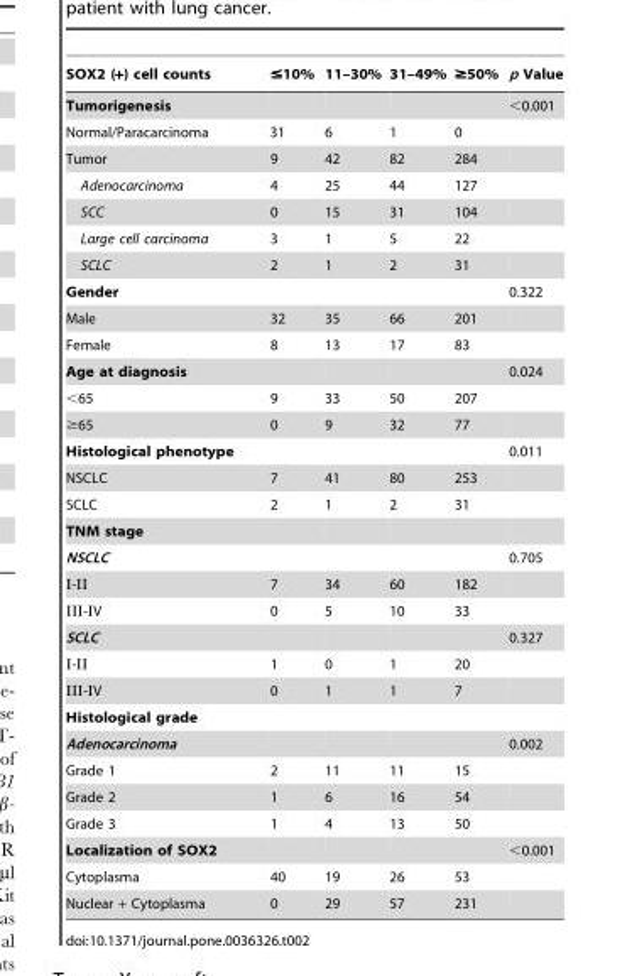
<table><thead><tr><td>SOX2 (+) cell counts</td><td>≤10%</td><td>11–30%</td><td>31–49%</td><td>≥50%</td><td>p Value</td></tr></thead><tbody><tr><td>Tumorigenesis</td><td></td><td></td><td></td><td></td><td>&lt;0.001</td></tr><tr><td>Normal/Paracarcinoma</td><td>31</td><td>6</td><td>1</td><td>0</td><td></td></tr><tr><td>Tumor</td><td>9</td><td>42</td><td>82</td><td>284</td><td></td></tr><tr><td>Adenocarcinoma</td><td>4</td><td>25</td><td>44</td><td>127</td><td></td></tr><tr><td>SCC</td><td>0</td><td>15</td><td>31</td><td>104</td><td></td></tr><tr><td>Large cell carcinoma</td><td>3</td><td>1</td><td>5</td><td>22</td><td></td></tr><tr><td>SCLC</td><td>2</td><td>1</td><td>2</td><td>31</td><td></td></tr><tr><td>Gender</td><td></td><td></td><td></td><td></td><td>0.322</td></tr><tr><td>Male</td><td>32</td><td>35</td><td>66</td><td>201</td><td></td></tr><tr><td>Female</td><td>8</td><td>13</td><td>17</td><td>83</td><td></td></tr><tr><td>Age at diagnosis</td><td></td><td></td><td></td><td></td><td>0.024</td></tr><tr><td>&lt;65</td><td>9</td><td>33</td><td>50</td><td>207</td><td></td></tr><tr><td>≥65</td><td>0</td><td>9</td><td>32</td><td>77</td><td></td></tr><tr><td>Histological phenotype</td><td></td><td></td><td></td><td></td><td>0.011</td></tr><tr><td>NSCLC</td><td>7</td><td>41</td><td>80</td><td>253</td><td></td></tr><tr><td>SCLC</td><td>2</td><td>1</td><td>2</td><td>31</td><td></td></tr><tr><td colspan="6">TNM stage</td></tr><tr><td>NSCLC</td><td></td><td></td><td></td><td></td><td>0.705</td></tr><tr><td>I-II</td><td>7</td><td>34</td><td>60</td><td>182</td><td></td></tr><tr><td>III-IV</td><td>0</td><td>5</td><td>10</td><td>33</td><td></td></tr><tr><td>SCLC</td><td></td><td></td><td></td><td></td><td>0.327</td></tr><tr><td>I-II</td><td>1</td><td>0</td><td>1</td><td>20</td><td></td></tr><tr><td>III-IV</td><td>0</td><td>1</td><td>1</td><td>7</td><td></td></tr><tr><td colspan="6">Histological grade</td></tr><tr><td>Adenocarcinoma</td><td></td><td></td><td></td><td></td><td>0.002</td></tr><tr><td>Grade 1</td><td>2</td><td>11</td><td>11</td><td>15</td><td></td></tr><tr><td>Grade 2</td><td>1</td><td>6</td><td>16</td><td>54</td><td></td></tr><tr><td>Grade 3</td><td>1</td><td>4</td><td>13</td><td>50</td><td></td></tr><tr><td>Localization of SOX2</td><td></td><td></td><td></td><td></td><td>&lt;0.001</td></tr><tr><td>Cytoplasma</td><td>40</td><td>19</td><td>26</td><td>53</td><td></td></tr><tr><td>Nuclear + Cytoplasma</td><td>0</td><td>29</td><td>57</td><td>231</td><td></td></tr></tbody></table>